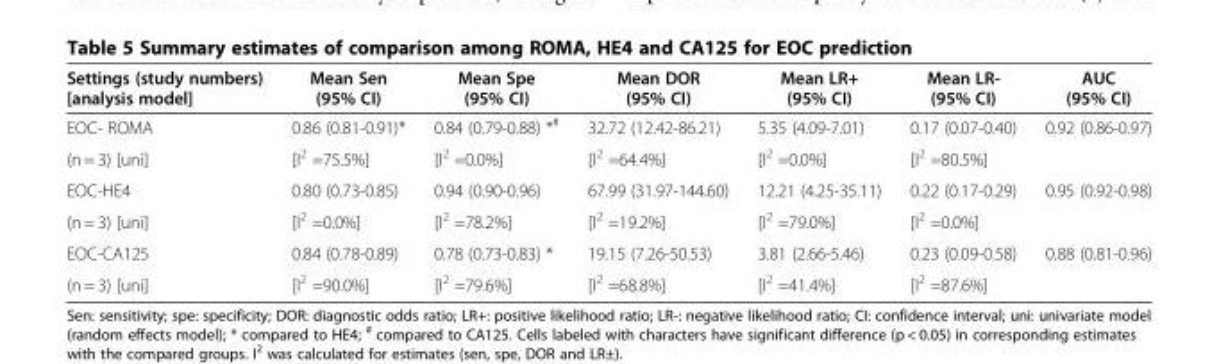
<table><thead><tr><td>Settings (study numbers) [analysis model]</td><td>Mean Sen (95% CI)</td><td>Mean Spe (95% CI)</td><td>Mean DOR (95% CI)</td><td>Mean LR+ (95% CI)</td><td>Mean LR- (95% CI)</td><td>AUC (95% CI)</td></tr></thead><tbody><tr><td>EOC- ROMA</td><td>0.86 (0.81-0.91)*</td><td>0.84 (0.79-0.88) *<sup>#</sup></td><td>32.72 (12.42-86.21)</td><td>5.35 (4.09-7.01)</td><td>0.17 (0.07-0.40)</td><td>0.92 (0.86-0.97)</td></tr><tr><td>(n = 3) [uni]</td><td>[I<sup>2</sup> =75.5%]</td><td>[I<sup>2</sup> =0.0%]</td><td>[I<sup>2</sup> =64.4%]</td><td>[I<sup>2</sup> =0.0%]</td><td>[I<sup>2</sup> =80.5%]</td><td></td></tr><tr><td>EOC-HE4</td><td>0.80 (0.73-0.85)</td><td>0.94 (0.90-0.96)</td><td>67.99 (31.97-144.60)</td><td>12.21 (4.25-35.11)</td><td>0.22 (0.17-0.29)</td><td>0.95 (0.92-0.98)</td></tr><tr><td>(n = 3) [uni]</td><td>[I<sup>2</sup> =0.0%]</td><td>[I<sup>2</sup> =78.2%]</td><td>[I<sup>2</sup> =19.2%]</td><td>[I<sup>2</sup> =79.0%]</td><td>[I<sup>2</sup> =0.0%]</td><td></td></tr><tr><td>EOC-CA125</td><td>0.84 (0.78-0.89)</td><td>0.78 (0.73-0.83) *</td><td>19.15 (7.26-50.53)</td><td>3.81 (2.66-5.46)</td><td>0.23 (0.09-0.58)</td><td>0.88 (0.81-0.96)</td></tr><tr><td>(n = 3) [uni]</td><td>[I<sup>2</sup> =90.0%]</td><td>[I<sup>2</sup> =79.6%]</td><td>[I<sup>2</sup> =68.8%]</td><td>[I<sup>2</sup> =41.4%]</td><td>[I<sup>2</sup> =87.6%]</td><td></td></tr></tbody></table>